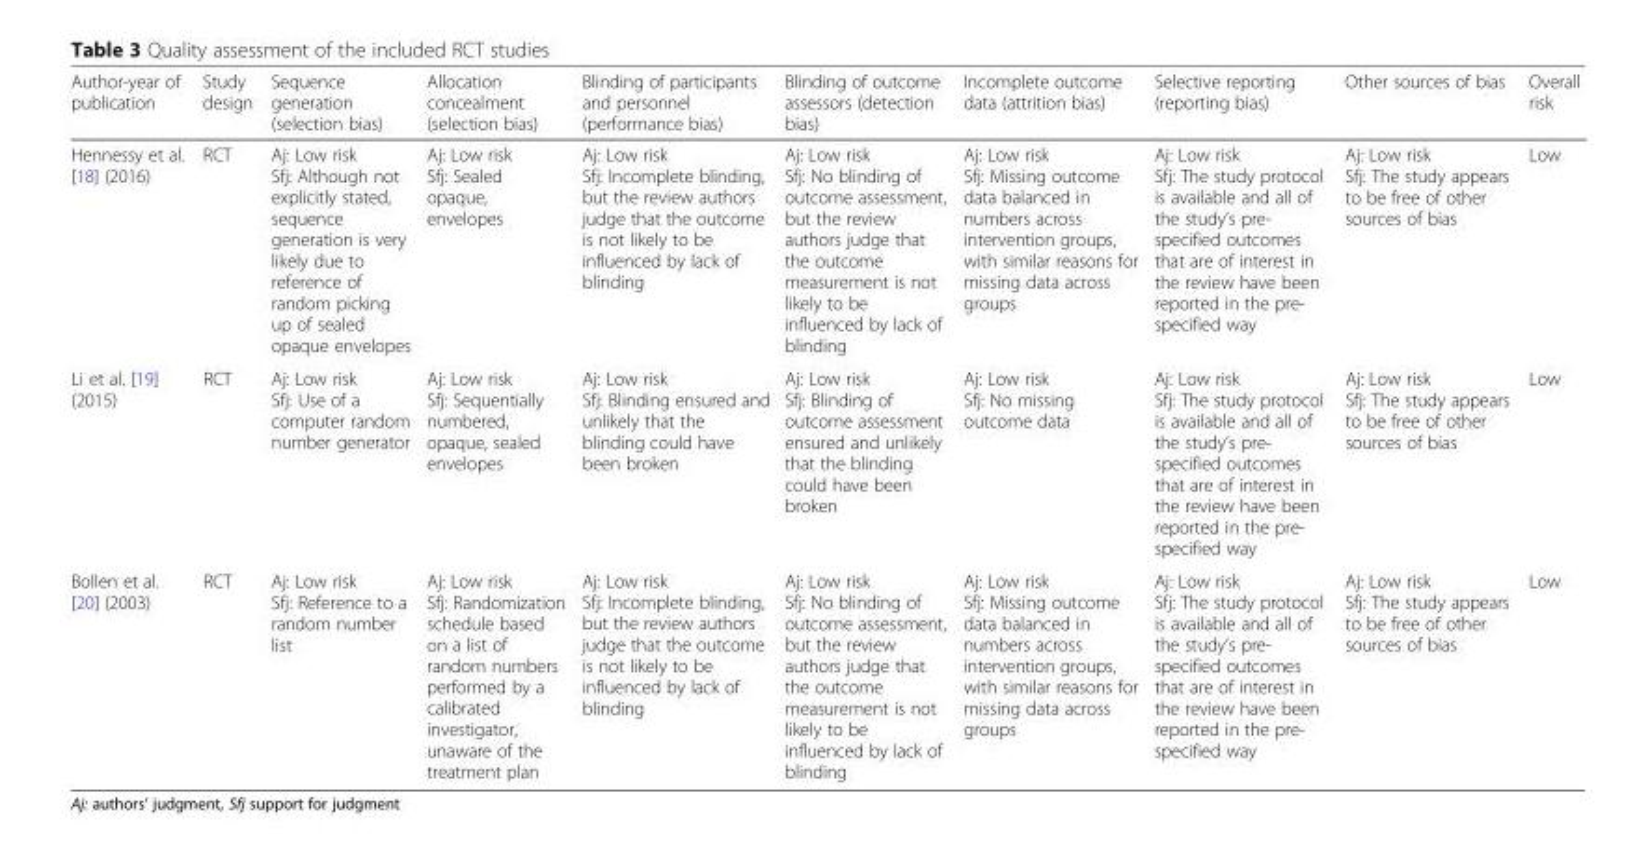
<table><thead><tr><td>Author-year of publication</td><td>Study design</td><td>Sequence generation (selection bias)</td><td>Allocation concealment (selection bias)</td><td>Blinding of participants and personnel (performance bias)</td><td>Blinding of outcome assessors (detection bias)</td><td>Incomplete outcome data (attrition bias)</td><td>Selective reporting (reporting bias)</td><td>Other sources of bias</td><td>Overall risk</td></tr></thead><tbody><tr><td>Hennessy et al. [18] (2016)</td><td>RCT</td><td>Aj: Low risk Sfj: Although not explicitly stated, sequence generation is very likely due to reference of random picking up of sealed opaque envelopes</td><td>Aj: Low risk Sfj: Sealed opaque, envelopes</td><td>Aj: Low risk Sfj: Incomplete blinding, but the review authors judge that the outcome is not likely to be influenced by lack of blinding</td><td>Aj: Low risk Sfj: No blinding of outcome assessment, but the review authors judge that the outcome measurement is not likely to be influenced by lack of blinding</td><td>Aj: Low risk Sfj: Missing outcome data balanced in numbers across intervention groups, with similar reasons for missing data across groups</td><td>Aj: Low risk Sfj: The study protocol is available and all of the study’s pre- specified outcomes that are of interest in the review have been reported in the pre- specified way</td><td>Aj: Low risk Sfj: The study appears to be free of other sources of bias</td><td>Low</td></tr><tr><td>Li et al. [19] (2015)</td><td>RCT</td><td>Aj: Low risk Sfj: Use of a computer random number generator</td><td>Aj: Low risk Sfj: Sequentially numbered, opaque, sealed envelopes</td><td>Aj: Low risk Sfj: Blinding ensured and unlikely that the blinding could have been broken</td><td>Aj: Low risk Sfj: Blinding of outcome assessment ensured and unlikely that the blinding could have been broken</td><td>Aj: Low risk Sfj: No missing outcome data</td><td>Aj: Low risk Sfj: The study protocol is available and all of the study’s pre- specified outcomes that are of interest in the review have been reported in the pre- specified way</td><td>Aj: Low risk Sfj: The study appears to be free of other sources of bias</td><td>Low</td></tr><tr><td>Bollen et al. [20] (2003)</td><td>RCT</td><td>Aj: Low risk Sfj: Reference to a random number list</td><td>Aj: Low risk Sfj: Randomization schedule based on a list of random numbers performed by a calibrated investigator, unaware of the treatment plan</td><td>Aj: Low risk Sfj: Incomplete blinding, but the review authors judge that the outcome is not likely to be influenced by lack of blinding</td><td>Aj: Low risk Sfj: No blinding of outcome assessment, but the review authors judge that the outcome measurement is not likely to be influenced by lack of blinding</td><td>Aj: Low risk Sfj: Missing outcome data balanced in numbers across intervention groups, with similar reasons for missing data across groups</td><td>Aj: Low risk Sfj: The study protocol is available and all of the study’s pre- specified outcomes that are of interest in the review have been reported in the pre- specified way</td><td>Aj: Low risk Sfj: The study appears to be free of other sources of bias</td><td>Low</td></tr></tbody></table>